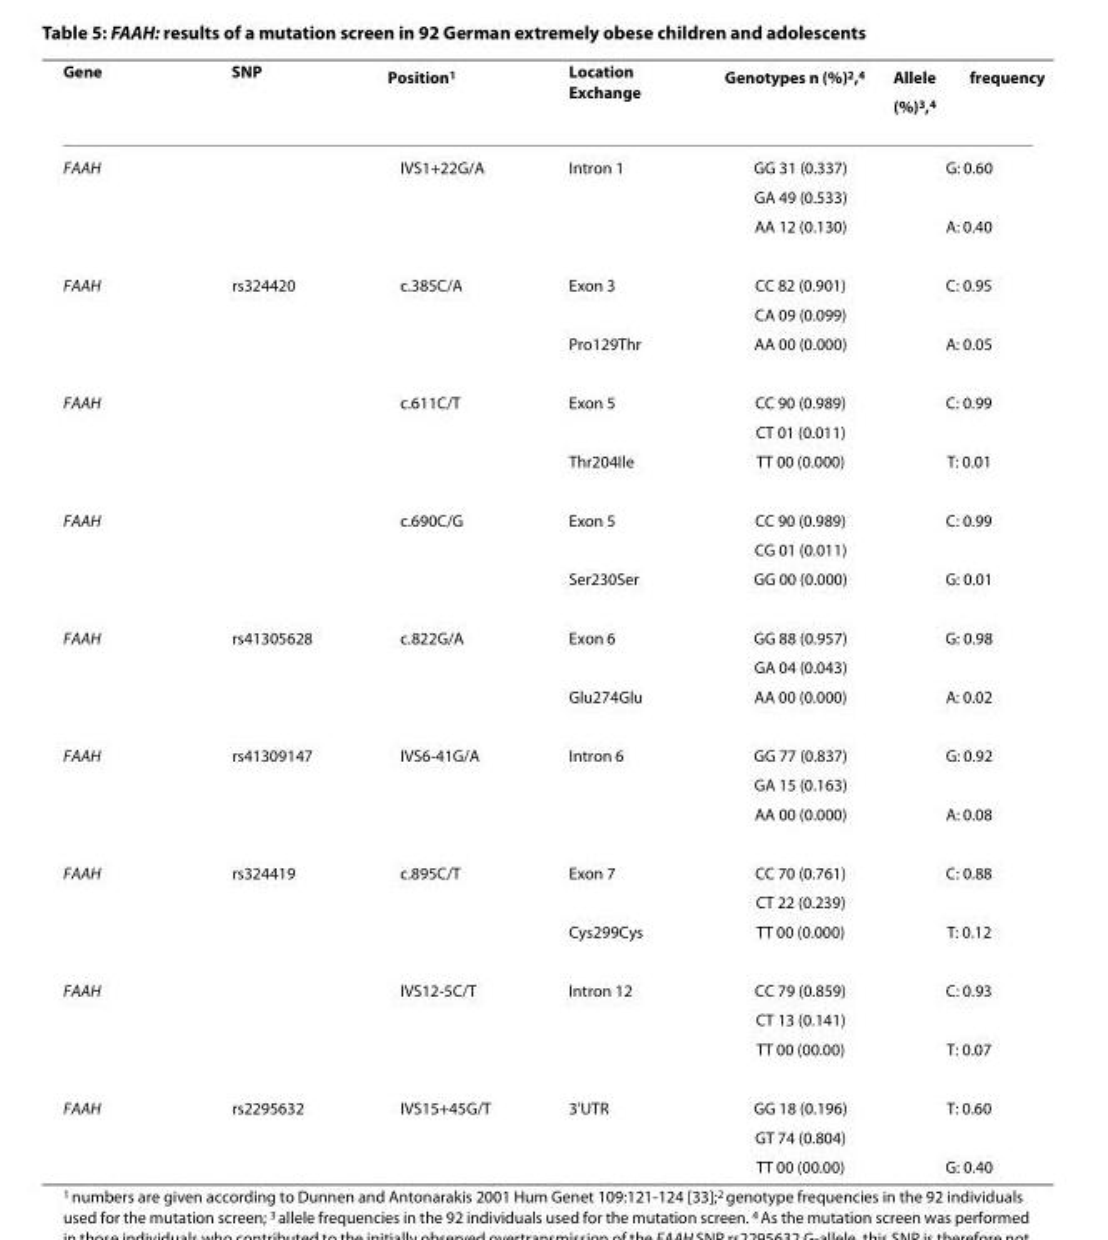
<table><thead><tr><td>Gene</td><td>SNP</td><td>Position<sup>1</sup></td><td>Location Exchange</td><td>Genotypes n (%)<sup>2,4</sup></td><td>Allele frequency (%)<sup>3,4</sup></td></tr></thead><tbody><tr><td rowspan="3">FAAH</td><td></td><td>IVS1+22G/A</td><td>Intron 1</td><td>GG 31 (0.337)</td><td>G: 0.60</td></tr><tr><td></td><td></td><td></td><td>GA 49 (0.533)</td><td></td></tr><tr><td></td><td></td><td></td><td>AA 12 (0.130)</td><td>A: 0.40</td></tr><tr><td rowspan="3">FAAH</td><td>rs324420</td><td>c.385C/A</td><td>Exon 3</td><td>CC 82 (0.901)</td><td>C: 0.95</td></tr><tr><td></td><td></td><td></td><td>CA 09 (0.099)</td><td></td></tr><tr><td></td><td></td><td>Pro129Thr</td><td>AA 00 (0.000)</td><td>A: 0.05</td></tr><tr><td rowspan="3">FAAH</td><td></td><td>c.611C/T</td><td>Exon 5</td><td>CC 90 (0.989)</td><td>C: 0.99</td></tr><tr><td></td><td></td><td></td><td>CT 01 (0.011)</td><td></td></tr><tr><td></td><td></td><td>Thr204Ile</td><td>TT 00 (0.000)</td><td>T: 0.01</td></tr><tr><td rowspan="3">FAAH</td><td></td><td>c.690C/G</td><td>Exon 5</td><td>CC 90 (0.989)</td><td>C: 0.99</td></tr><tr><td></td><td></td><td></td><td>CG 01 (0.011)</td><td></td></tr><tr><td></td><td></td><td>Ser230Ser</td><td>GG 00 (0.000)</td><td>G: 0.01</td></tr><tr><td rowspan="3">FAAH</td><td>rs41305628</td><td>c.822G/A</td><td>Exon 6</td><td>GG 88 (0.957)</td><td>G: 0.98</td></tr><tr><td></td><td></td><td></td><td>GA 04 (0.043)</td><td></td></tr><tr><td></td><td></td><td>Glu274Glu</td><td>AA 00 (0.000)</td><td>A: 0.02</td></tr><tr><td rowspan="3">FAAH</td><td>rs41309147</td><td>IVS6-41G/A</td><td>Intron 6</td><td>GG 77 (0.837)</td><td>G: 0.92</td></tr><tr><td></td><td></td><td></td><td>GA 15 (0.163)</td><td></td></tr><tr><td></td><td></td><td></td><td>AA 00 (0.000)</td><td>A: 0.08</td></tr><tr><td rowspan="3">FAAH</td><td>rs324419</td><td>c.895C/T</td><td>Exon 7</td><td>CC 70 (0.761)</td><td>C: 0.88</td></tr><tr><td></td><td></td><td></td><td>CT 22 (0.239)</td><td></td></tr><tr><td></td><td></td><td>Cys299Cys</td><td>TT 00 (0.000)</td><td>T: 0.12</td></tr><tr><td rowspan="3">FAAH</td><td></td><td>IVS12-5C/T</td><td>Intron 12</td><td>CC 79 (0.859)</td><td>C: 0.93</td></tr><tr><td></td><td></td><td></td><td>CT 13 (0.141)</td><td></td></tr><tr><td></td><td></td><td></td><td>TT 00 (00.00)</td><td>T: 0.07</td></tr><tr><td rowspan="3">FAAH</td><td>rs2295632</td><td>IVS15+45G/T</td><td>3&#x27;UTR</td><td>GG 18 (0.196)</td><td>T: 0.60</td></tr><tr><td></td><td></td><td></td><td>GT 74 (0.804)</td><td></td></tr><tr><td></td><td></td><td></td><td>TT 00 (00.00)</td><td>G: 0.40</td></tr></tbody></table>